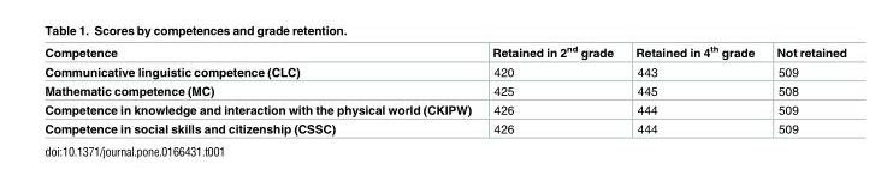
<table><thead><tr><td>Competence</td><td>Retained in 2<sup>nd</sup> grade</td><td>Retained in 4<sup>th</sup> grade</td><td>Not retained</td></tr></thead><tbody><tr><td>Communicative linguistic competence (CLC)</td><td>420</td><td>443</td><td>509</td></tr><tr><td>Mathematic competence (MC)</td><td>425</td><td>445</td><td>508</td></tr><tr><td>Competence in knowledge and interaction with the physical world (CKIPW)</td><td>426</td><td>444</td><td>509</td></tr><tr><td>Competence in social skills and citizenship (CSSC)</td><td>426</td><td>444</td><td>509</td></tr></tbody></table>